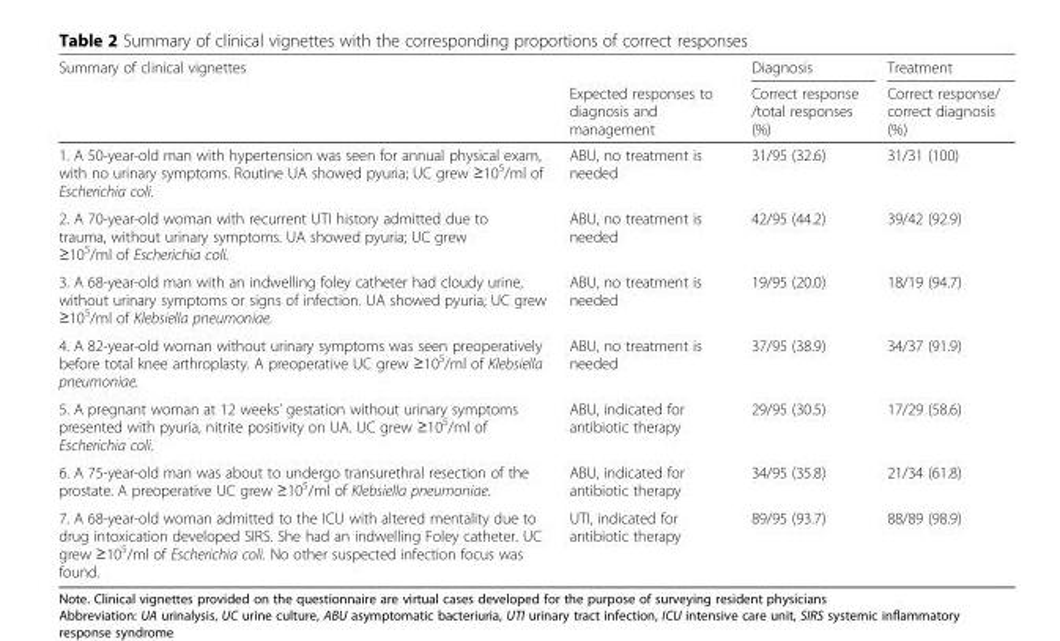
<table><thead><tr><td rowspan="2">Summary of clinical vignettes</td><td rowspan="2">Expected responses to diagnosis and management</td><td rowspan="2">Diagnosis Correct response /total responses (%)</td><td rowspan="2">Treatment Correct response/ correct diagnosis (%)</td></tr><tr></tr></thead><tbody><tr><td>1. A 50-year-old man with hypertension was seen for annual physical exam, with no urinary symptoms. Routine UA showed pyuria; UC grew ≥10<sup>5</sup>/ml of Escherichia coli.</td><td>ABU, no treatment is needed</td><td>31/95 (32.6)</td><td>31/31 (100)</td></tr><tr><td>2. A 70-year-old woman with recurrent UTI history admitted due to trauma, without urinary symptoms. UA showed pyuria; UC grew ≥10<sup>5</sup>/ml of Escherichia coli.</td><td>ABU, no treatment is needed</td><td>42/95 (44.2)</td><td>39/42 (92.9)</td></tr><tr><td>3. A 68-year-old man with an indwelling foley catheter had cloudy urine, without urinary symptoms or signs of infection. UA showed pyuria; UC grew ≥10<sup>5</sup>/ml of Klebsiella pneumoniae.</td><td>ABU, no treatment is needed</td><td>19/95 (20.0)</td><td>18/19 (94.7)</td></tr><tr><td>4. A 82-year-old woman without urinary symptoms was seen preoperatively before total knee arthroplasty. A preoperative UC grew ≥10<sup>5</sup>/ml of Klebsiella pneumoniae.</td><td>ABU, no treatment is needed</td><td>37/95 (38.9)</td><td>34/37 (91.9)</td></tr><tr><td>5. A pregnant woman at 12 weeks’ gestation without urinary symptoms presented with pyuria, nitrite positivity on UA. UC grew ≥10<sup>5</sup>/ml of Escherichia coli.</td><td>ABU, indicated for antibiotic therapy</td><td>29/95 (30.5)</td><td>17/29 (58.6)</td></tr><tr><td>6. A 75-year-old man was about to undergo transurethral resection of the prostate. A preoperative UC grew ≥10<sup>5</sup>/ml of Klebsiella pneumoniae.</td><td>ABU, indicated for antibiotic therapy</td><td>34/95 (35.8)</td><td>21/34 (61.8)</td></tr><tr><td>7. A 68-year-old woman admitted to the ICU with altered mentality due to drug intoxication developed SIRS. She had an indwelling Foley catheter. UC grew ≥10<sup>5</sup>/ml of Escherichia coli. No other suspected infection focus was found.</td><td>UTI, indicated for antibiotic therapy</td><td>89/95 (93.7)</td><td>88/89 (98.9)</td></tr></tbody></table>